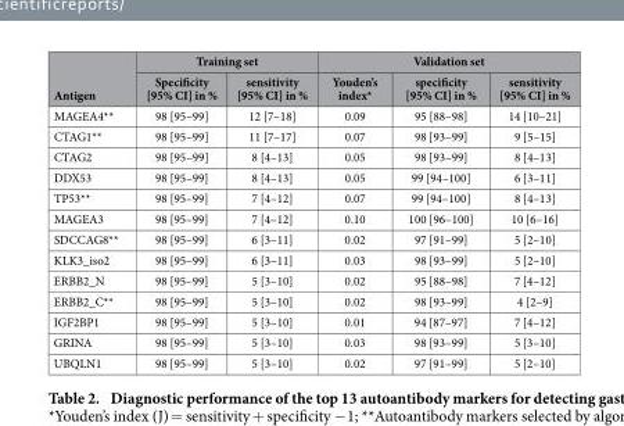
<table><thead><tr><td rowspan="2">Antigen</td><td colspan="2">Training set</td><td colspan="3">Validation set</td></tr><tr><td>Specificity [95% CI] in %</td><td>sensitivity [95% CI] in %</td><td>Youden’s index*</td><td>specificity [95% CI] in %</td><td>sensitivity [95% CI] in %</td></tr></thead><tbody><tr><td>MAGEA4**</td><td>98 [95–99]</td><td>12 [7–18]</td><td>0.09</td><td>95 [88–98]</td><td>14 [10–21]</td></tr><tr><td>CTAG1**</td><td>98 [95–99]</td><td>11 [7–17]</td><td>0.07</td><td>98 [93–99]</td><td>9 [5–15]</td></tr><tr><td>CTAG2</td><td>98 [95–99]</td><td>8 [4–13]</td><td>0.05</td><td>98 [93–99]</td><td>8 [4–13]</td></tr><tr><td>DDX53</td><td>98 [95–99]</td><td>8 [4–13]</td><td>0.05</td><td>99 [94–100]</td><td>6 [3–11]</td></tr><tr><td>TP53**</td><td>98 [95–99]</td><td>7 [4–12]</td><td>0.07</td><td>99 [94–100]</td><td>8 [4–13]</td></tr><tr><td>MAGEA3</td><td>98 [95–99]</td><td>7 [4–12]</td><td>0.10</td><td>100 [96–100]</td><td>10 [6–16]</td></tr><tr><td>SDCCAG8**</td><td>98 [95–99]</td><td>6 [3–11]</td><td>0.02</td><td>97 [91–99]</td><td>5 [2–10]</td></tr><tr><td>KLK3_iso2</td><td>98 [95–99]</td><td>6 [3–11]</td><td>0.03</td><td>98 [93–99]</td><td>5 [2–10]</td></tr><tr><td>ERBB2_N</td><td>98 [95–99]</td><td>5 [3–10]</td><td>0.02</td><td>95 [88–98]</td><td>7 [4–12]</td></tr><tr><td>ERBB2_C**</td><td>98 [95–99]</td><td>5 [3–10]</td><td>0.02</td><td>98 [93–99]</td><td>4 [2–9]</td></tr><tr><td>IGF2BP1</td><td>98 [95–99]</td><td>5 [3–10]</td><td>0.01</td><td>94 [87–97]</td><td>7 [4–12]</td></tr><tr><td>GRINA</td><td>98 [95–99]</td><td>5 [3–10]</td><td>0.03</td><td>98 [93–99]</td><td>5 [3–10]</td></tr><tr><td>UBQLN1</td><td>98 [95–99]</td><td>5 [3–10]</td><td>0.02</td><td>97 [91–99]</td><td>5 [2–10]</td></tr></tbody></table>